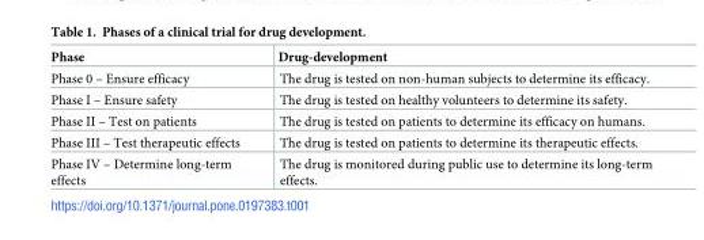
<table><thead><tr><td>Phase</td><td>Drug-development</td></tr></thead><tbody><tr><td>Phase 0 – Ensure efficacy</td><td>The drug is tested on non-human subjects to determine its efficacy.</td></tr><tr><td>Phase I – Ensure safety</td><td>The drug is tested on healthy volunteers to determine its safety.</td></tr><tr><td>Phase II – Test on patients</td><td>The drug is tested on patients to determine its efficacy on humans.</td></tr><tr><td>Phase III – Test therapeutic effects</td><td>The drug is tested on patients to determine its therapeutic effects.</td></tr><tr><td>Phase IV – Determine long-term effects</td><td>The drug is monitored during public use to determine its long-term effects.</td></tr></tbody></table>